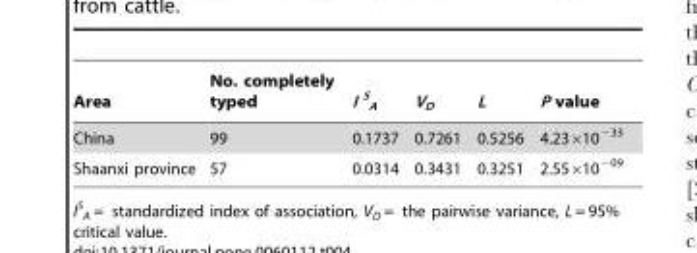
<table><thead><tr><td>Area</td><td>No. completely typed</td><td>I <sup>S</sup> <sub>A</sub></td><td>V<sub>D</sub></td><td>L</td><td>P value</td></tr></thead><tbody><tr><td>China</td><td>99</td><td>0.1737</td><td>0.7261</td><td>0.5256</td><td>4.23×10<sup>−33</sup></td></tr><tr><td>Shaanxi province</td><td>57</td><td>0.0314</td><td>0.3431</td><td>0.3251</td><td>2.55×10<sup>−09</sup></td></tr></tbody></table>